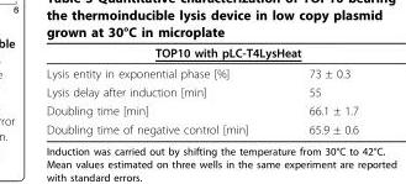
<table><thead><tr><td colspan="2">TOP10 with pLC-T4LysHeat</td></tr><tr><td>Lysis entity in exponential phase [%]</td><td>73 ± 0.3</td></tr></thead><tbody><tr><td>Lysis delay after induction [min]</td><td>55</td></tr><tr><td>Doubling time [min]</td><td>66.1 ± 1.7</td></tr><tr><td>Doubling time of negative control [min]</td><td>65.9 ± 0.6</td></tr></tbody></table>